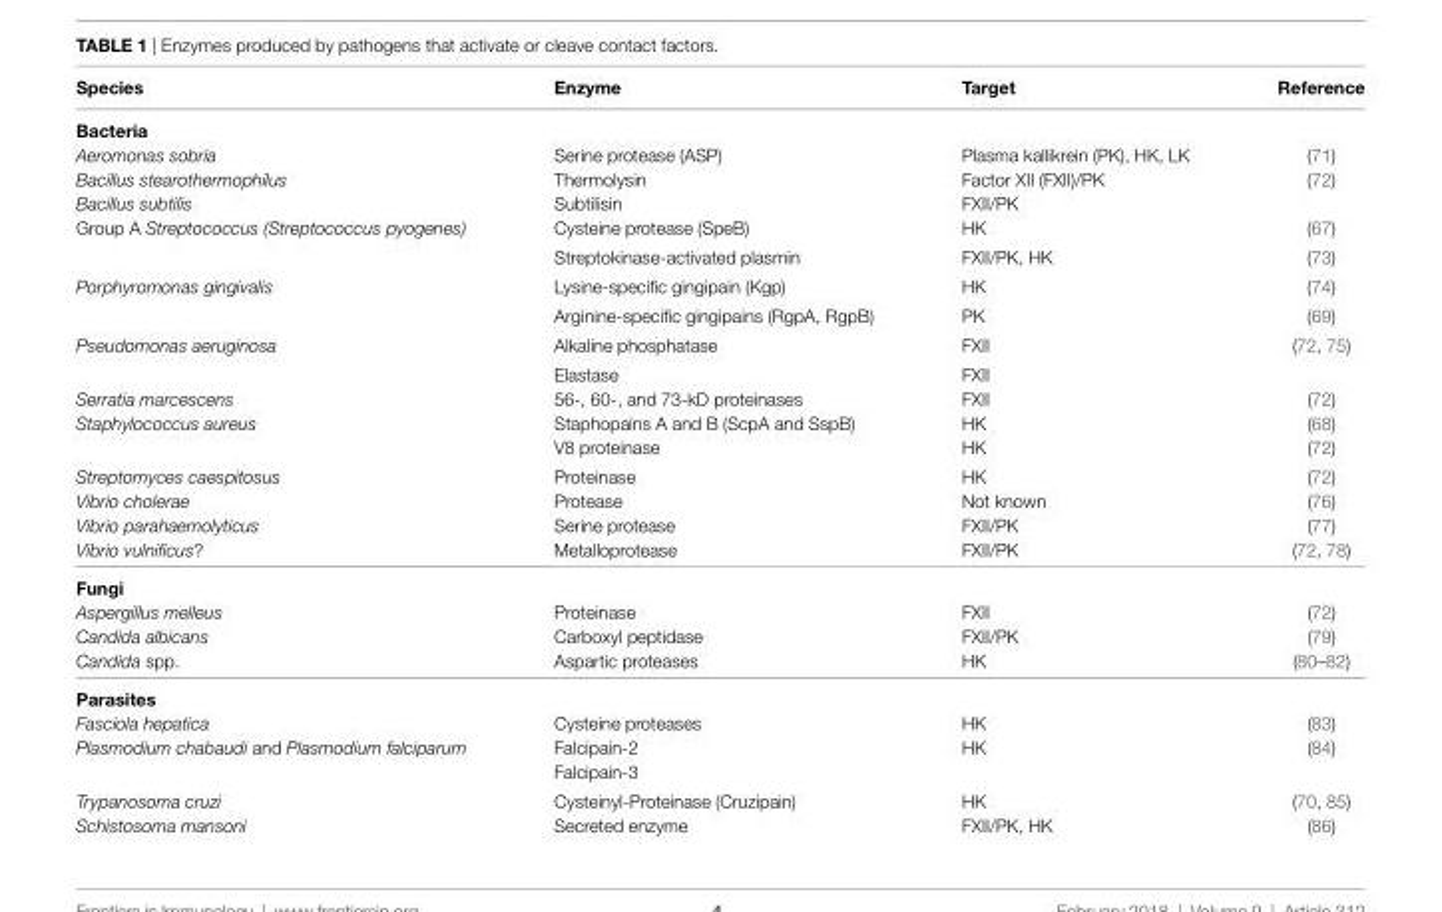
<table><thead><tr><td>Species</td><td>enzyme</td><td>Target</td><td>Reference</td></tr></thead><tbody><tr><td colspan="4">Bacteria</td></tr><tr><td>Aeromonas sobria</td><td>Serine protease (ASP)</td><td>Plasma kallikrein (PK), HK, LK</td><td>(71)</td></tr><tr><td>Bacillus stearothermophilus</td><td>Thermolysin</td><td>Factor XII (FXII)/PK</td><td rowspan="2">(72)</td></tr><tr><td>Bacillus subtilis</td><td>Subtilisin</td><td>FXII/PK</td></tr><tr><td rowspan="2">Group A Streptococcus (Streptococcus pyogenes)</td><td>Cysteine protease (SpeB)</td><td>HK</td><td>(67)</td></tr><tr><td>Streptokinase-activated plasmin</td><td>FXII/PK, HK</td><td>(73)</td></tr><tr><td rowspan="2">Porphyromonas gingivalis</td><td>Lysine-specific gingipain (Kgp)</td><td>HK</td><td>(74)</td></tr><tr><td>Arginine-specific gingipains (RgpA, RgpB)</td><td>PK</td><td>(69)</td></tr><tr><td rowspan="2">Pseudomonas aeruginosa</td><td>Alkaline phosphatase</td><td>FXII</td><td rowspan="2">(72, 75)</td></tr><tr><td>Elastase</td><td>FXII</td></tr><tr><td>Serratia marcescens</td><td>56-, 60-, and 73-kD proteinases</td><td>FXII</td><td>(72)</td></tr><tr><td rowspan="2">Staphylococcus aureus</td><td>Staphopains A and B (ScpA and SspB)</td><td>HK</td><td>(68)</td></tr><tr><td>V8 proteinase</td><td>HK</td><td>(72)</td></tr><tr><td>Streptomyces caespitosus</td><td>Proteinase</td><td>HK</td><td>(72)</td></tr><tr><td>Vibrio cholerae</td><td>Protease</td><td>Not known</td><td>(76)</td></tr><tr><td>Vibrio parahaemolyticus</td><td>Serine protease</td><td>FXII/PK</td><td>(77)</td></tr><tr><td>Vibrio vulnificus?</td><td>Metalloprotease</td><td>FXII/PK</td><td>(72, 78)</td></tr><tr><td colspan="4">Fungi</td></tr><tr><td>Aspergillus melleus</td><td>Proteinase</td><td>FXII</td><td>(72)</td></tr><tr><td>Candida albicans</td><td>Carboxyl peptidase</td><td>FXII/PK</td><td>(79)</td></tr><tr><td>Candida spp.</td><td>Aspartic proteases</td><td>HK</td><td>(80–82)</td></tr><tr><td colspan="4">Parasites</td></tr><tr><td>Fasciola hepatica</td><td>Cysteine proteases</td><td>HK</td><td>(83)</td></tr><tr><td>Plasmodium chabaudi and Plasmodium falciparum</td><td>Falcipain-2 Falcipain-3</td><td>HK</td><td>(84)</td></tr><tr><td>Trypanosoma cruzi</td><td>Cysteinyl-Proteinase (Cruzipain)</td><td>HK</td><td>(70, 85)</td></tr><tr><td>Schistosoma mansoni</td><td>Secreted enzyme</td><td>FXII/PK, HK</td><td>(86)</td></tr></tbody></table>